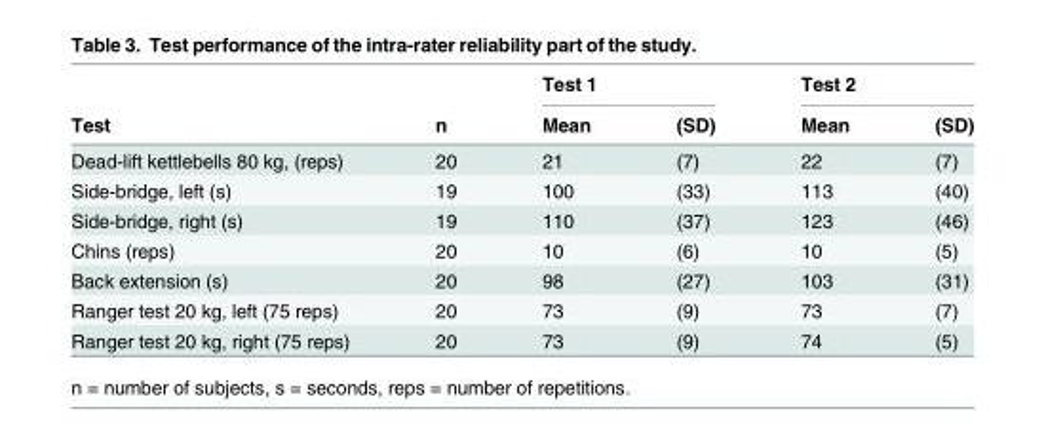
<table><thead><tr><td rowspan="2">Test</td><td rowspan="2">n</td><td colspan="2">Test 1</td><td colspan="2">Test 2</td></tr><tr><td>Mean</td><td>(SD)</td><td>Mean</td><td>(SD)</td></tr></thead><tbody><tr><td>Dead-lift kettlebells 80 kg, (reps)</td><td>20</td><td>21</td><td>(7)</td><td>22</td><td>(7)</td></tr><tr><td>Side-bridge, left (s)</td><td>19</td><td>100</td><td>(33)</td><td>113</td><td>(40)</td></tr><tr><td>Side-bridge, right (s)</td><td>19</td><td>110</td><td>(37)</td><td>123</td><td>(46)</td></tr><tr><td>Chins (reps)</td><td>20</td><td>10</td><td>(6)</td><td>10</td><td>(5)</td></tr><tr><td>Back extension (s)</td><td>20</td><td>98</td><td>(27)</td><td>103</td><td>(31)</td></tr><tr><td>Ranger test 20 kg, left (75 reps)</td><td>20</td><td>73</td><td>(9)</td><td>73</td><td>(7)</td></tr><tr><td>Ranger test 20 kg, right (75 reps)</td><td>20</td><td>73</td><td>(9)</td><td>74</td><td>(5)</td></tr></tbody></table>